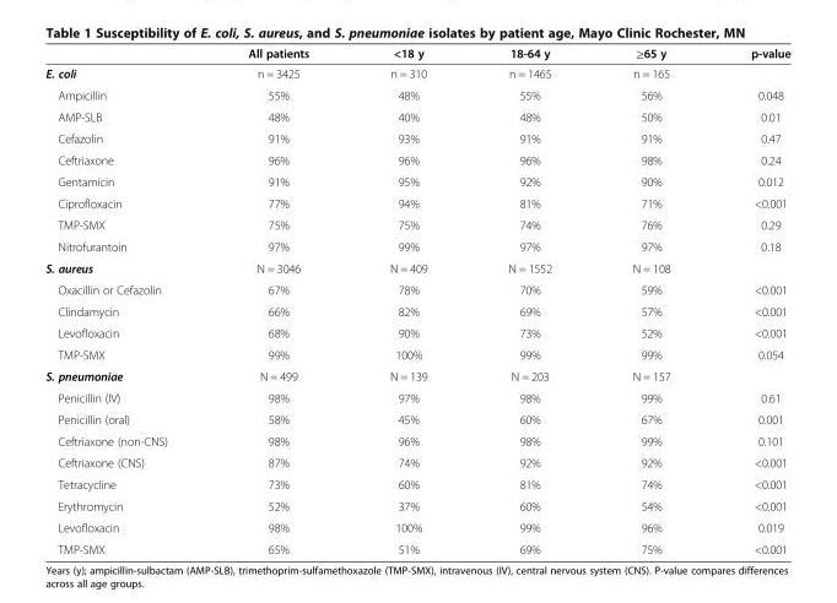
<table><thead><tr><td></td><td>All patients</td><td>&lt;18 y</td><td>18-64 y</td><td>≥65 y</td><td>p-value</td></tr></thead><tbody><tr><td>E. coli</td><td>n = 3425</td><td>n = 310</td><td>n = 1465</td><td>n = 165</td><td></td></tr><tr><td>Ampicillin</td><td>55%</td><td>48%</td><td>55%</td><td>56%</td><td>0.048</td></tr><tr><td>AMP-SLB</td><td>48%</td><td>40%</td><td>48%</td><td>50%</td><td>0.01</td></tr><tr><td>Cefazolin</td><td>91%</td><td>93%</td><td>91%</td><td>91%</td><td>0.47</td></tr><tr><td>Ceftriaxone</td><td>96%</td><td>96%</td><td>96%</td><td>98%</td><td>0.24</td></tr><tr><td>Gentamicin</td><td>91%</td><td>95%</td><td>92%</td><td>90%</td><td>0.012</td></tr><tr><td>Ciprofloxacin</td><td>77%</td><td>94%</td><td>81%</td><td>71%</td><td>&lt;0.001</td></tr><tr><td>TMP-SMX</td><td>75%</td><td>75%</td><td>74%</td><td>76%</td><td>0.29</td></tr><tr><td>Nitrofurantoin</td><td>97%</td><td>99%</td><td>97%</td><td>97%</td><td>0.18</td></tr><tr><td>S. aureus</td><td>N = 3046</td><td>N = 409</td><td>N = 1552</td><td>N = 108</td><td></td></tr><tr><td>Oxacillin or Cefazolin</td><td>67%</td><td>78%</td><td>70%</td><td>59%</td><td>&lt;0.001</td></tr><tr><td>Clindamycin</td><td>66%</td><td>82%</td><td>69%</td><td>57%</td><td>&lt;0.001</td></tr><tr><td>Levofloxacin</td><td>68%</td><td>90%</td><td>73%</td><td>52%</td><td>&lt;0.001</td></tr><tr><td>TMP-SMX</td><td>99%</td><td>100%</td><td>99%</td><td>99%</td><td>0.054</td></tr><tr><td>S. pneumoniae</td><td>N = 499</td><td>N = 139</td><td>N = 203</td><td>N = 157</td><td></td></tr><tr><td>Penicillin (IV)</td><td>98%</td><td>97%</td><td>98%</td><td>99%</td><td>0.61</td></tr><tr><td>Penicillin (oral)</td><td>58%</td><td>45%</td><td>60%</td><td>67%</td><td>0.001</td></tr><tr><td>Ceftriaxone (non-CNS)</td><td>98%</td><td>96%</td><td>98%</td><td>99%</td><td>0.101</td></tr><tr><td>Ceftriaxone (CNS)</td><td>87%</td><td>74%</td><td>92%</td><td>92%</td><td>&lt;0.001</td></tr><tr><td>Tetracycline</td><td>73%</td><td>60%</td><td>81%</td><td>74%</td><td>&lt;0.001</td></tr><tr><td>Erythromycin</td><td>52%</td><td>37%</td><td>60%</td><td>54%</td><td>&lt;0.001</td></tr><tr><td>Levofloxacin</td><td>98%</td><td>100%</td><td>99%</td><td>96%</td><td>0.019</td></tr><tr><td>TMP-SMX</td><td>65%</td><td>51%</td><td>69%</td><td>75%</td><td>&lt;0.001</td></tr></tbody></table>